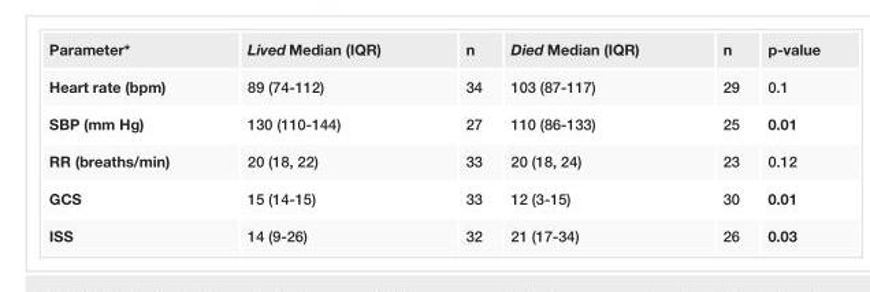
<table><tbody><tr><td>Parameter*</td><td>Lived Median (IQR)</td><td>n</td><td>Died Median (IQR)</td><td>n</td><td>p-value</td></tr><tr><td>Heart rate (bpm)</td><td>89 (74-112)</td><td>34</td><td>103 (87-117)</td><td>29</td><td>0.1</td></tr><tr><td>SBP (mm Hg)</td><td>130 (110-144)</td><td>27</td><td>110 (86-133)</td><td>25</td><td>0.01</td></tr><tr><td>RR (breaths/min)</td><td>20 (18, 22)</td><td>33</td><td>20 (18, 24)</td><td>23</td><td>0.12</td></tr><tr><td>GCS</td><td>15 (14-15)</td><td>33</td><td>12 (3-15)</td><td>30</td><td>0.01</td></tr><tr><td>ISS</td><td>14 (9-26)</td><td>32</td><td>21 (17-34)</td><td>26</td><td>0.03</td></tr></tbody></table>